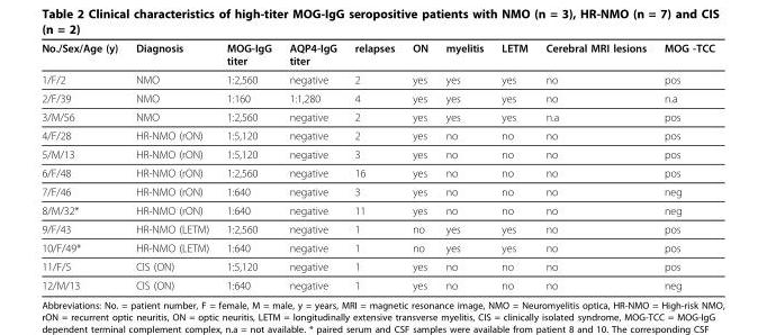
<table><thead><tr><td>No./Sex/Age (y)</td><td>Diagnosis</td><td>MOG-IgG titer</td><td>AQP4-IgG titer</td><td>relapses</td><td>ON</td><td>myelitis</td><td>LETM</td><td>Cerebral MRI lesions</td><td>MOG -TCC</td></tr></thead><tbody><tr><td>1/F/2</td><td>NMO</td><td>1:2,560</td><td>negative</td><td>2</td><td>yes</td><td>yes</td><td>yes</td><td>no</td><td>pos</td></tr><tr><td>2/F/39</td><td>NMO</td><td>1:160</td><td>1:1,280</td><td>4</td><td>yes</td><td>yes</td><td>yes</td><td>no</td><td>n.a</td></tr><tr><td>3/M/56</td><td>NMO</td><td>1:2,560</td><td>negative</td><td>2</td><td>yes</td><td>yes</td><td>yes</td><td>n.a</td><td>pos</td></tr><tr><td>4/F/28</td><td>HR-NMO (rON)</td><td>1:5,120</td><td>negative</td><td>2</td><td>yes</td><td>no</td><td>no</td><td>no</td><td>pos</td></tr><tr><td>5/M/13</td><td>HR-NMO (rON)</td><td>1:5,120</td><td>negative</td><td>3</td><td>yes</td><td>no</td><td>no</td><td>no</td><td>pos</td></tr><tr><td>6/F/48</td><td>HR-NMO (rON)</td><td>1:2,560</td><td>negative</td><td>16</td><td>yes</td><td>no</td><td>no</td><td>no</td><td>pos</td></tr><tr><td>7/F/46</td><td>HR-NMO (rON)</td><td>1:640</td><td>negative</td><td>3</td><td>yes</td><td>no</td><td>no</td><td>no</td><td>neg</td></tr><tr><td>8/M/32*</td><td>HR-NMO (rON)</td><td>1:640</td><td>negative</td><td>11</td><td>yes</td><td>no</td><td>no</td><td>no</td><td>neg</td></tr><tr><td>9/F/43</td><td>HR-NMO (LETM)</td><td>1:2,560</td><td>negative</td><td>1</td><td>no</td><td>yes</td><td>yes</td><td>no</td><td>pos</td></tr><tr><td>10/F/49*</td><td>HR-NMO (LETM)</td><td>1:640</td><td>negative</td><td>1</td><td>no</td><td>yes</td><td>yes</td><td>no</td><td>pos</td></tr><tr><td>11/F/5</td><td>CIS (ON)</td><td>1:5,120</td><td>negative</td><td>1</td><td>yes</td><td>no</td><td>no</td><td>no</td><td>pos</td></tr><tr><td>12/M/13</td><td>CIS (ON)</td><td>1:640</td><td>negative</td><td>1</td><td>yes</td><td>no</td><td>no</td><td>no</td><td>neg</td></tr></tbody></table>